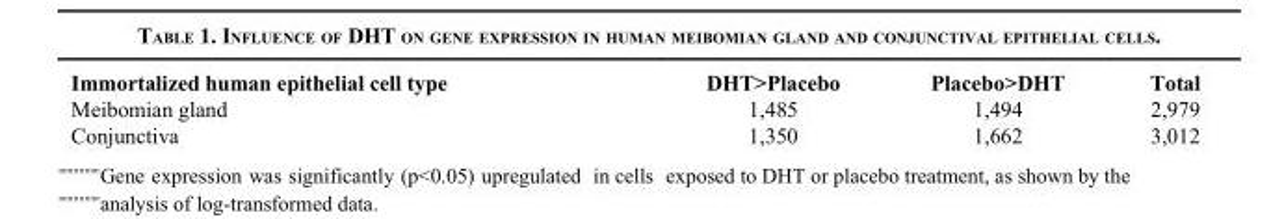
<table><thead><tr><td>Immortalized human epithelial cell type</td><td>DHT&gt;Placebo</td><td>Placebo&gt;DHT</td><td>Total</td></tr></thead><tbody><tr><td>Meibomian gland</td><td>1,485</td><td>1,494</td><td>2,979</td></tr><tr><td>Conjunctiva</td><td>1,350</td><td>1,662</td><td>3,012</td></tr></tbody></table>